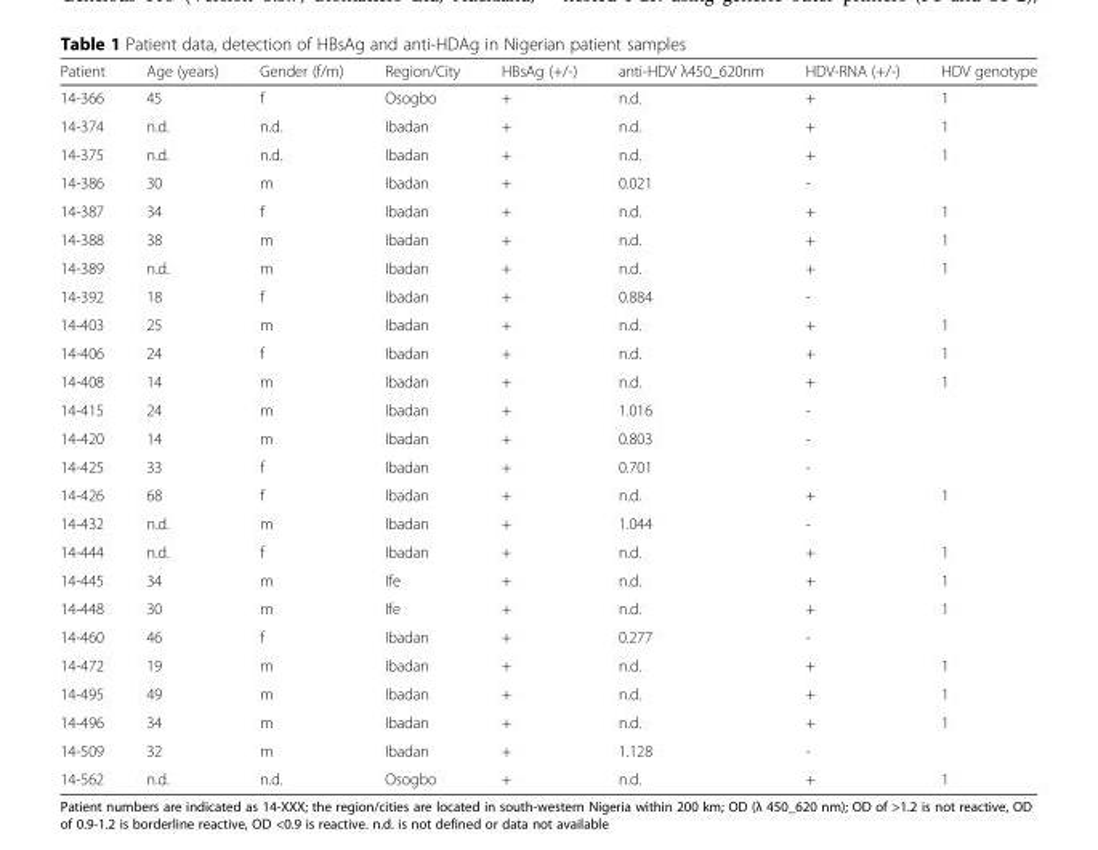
<table><thead><tr><td>Patient</td><td>Age (years)</td><td>Gender (f/m)</td><td>Region/City</td><td>HBsAg (+/-)</td><td>anti-HDV λ450_620nm</td><td>HDV-RNA (+/-)</td><td>HDV genotype</td></tr></thead><tbody><tr><td>14-366</td><td>45</td><td>f</td><td>Osogbo</td><td>+</td><td>n.d.</td><td>+</td><td>1</td></tr><tr><td>14-374</td><td>n.d.</td><td>n.d.</td><td>Ibadan</td><td>+</td><td>n.d.</td><td>+</td><td>1</td></tr><tr><td>14-375</td><td>n.d.</td><td>n.d.</td><td>Ibadan</td><td>+</td><td>n.d.</td><td>+</td><td>1</td></tr><tr><td>14-386</td><td>30</td><td>m</td><td>Ibadan</td><td>+</td><td>0.021</td><td>-</td><td></td></tr><tr><td>14-387</td><td>34</td><td>f</td><td>Ibadan</td><td>+</td><td>n.d.</td><td>+</td><td>1</td></tr><tr><td>14-388</td><td>38</td><td>m</td><td>Ibadan</td><td>+</td><td>n.d.</td><td>+</td><td>1</td></tr><tr><td>14-389</td><td>n.d.</td><td>m</td><td>Ibadan</td><td>+</td><td>n.d.</td><td>+</td><td>1</td></tr><tr><td>14-392</td><td>18</td><td>f</td><td>Ibadan</td><td>+</td><td>0.884</td><td>-</td><td></td></tr><tr><td>14-403</td><td>25</td><td>m</td><td>Ibadan</td><td>+</td><td>n.d.</td><td>+</td><td>1</td></tr><tr><td>14-406</td><td>24</td><td>f</td><td>Ibadan</td><td>+</td><td>n.d.</td><td>+</td><td>1</td></tr><tr><td>14-408</td><td>14</td><td>m</td><td>Ibadan</td><td>+</td><td>n.d.</td><td>+</td><td>1</td></tr><tr><td>14-415</td><td>24</td><td>m</td><td>Ibadan</td><td>+</td><td>1.016</td><td>-</td><td></td></tr><tr><td>14-420</td><td>14</td><td>m</td><td>Ibadan</td><td>+</td><td>0.803</td><td>-</td><td></td></tr><tr><td>14-425</td><td>33</td><td>f</td><td>Ibadan</td><td>+</td><td>0.701</td><td>-</td><td></td></tr><tr><td>14-426</td><td>68</td><td>f</td><td>Ibadan</td><td>+</td><td>n.d.</td><td>+</td><td>1</td></tr><tr><td>14-432</td><td>n.d.</td><td>m</td><td>Ibadan</td><td>+</td><td>1.044</td><td>-</td><td></td></tr><tr><td>14-444</td><td>n.d.</td><td>f</td><td>Ibadan</td><td>+</td><td>n.d.</td><td>+</td><td>1</td></tr><tr><td>14-445</td><td>34</td><td>m</td><td>Ife</td><td>+</td><td>n.d.</td><td>+</td><td>1</td></tr><tr><td>14-448</td><td>30</td><td>m</td><td>Ife</td><td>+</td><td>n.d.</td><td>+</td><td>1</td></tr><tr><td>14-460</td><td>46</td><td>f</td><td>Ibadan</td><td>+</td><td>0.277</td><td>-</td><td></td></tr><tr><td>14-472</td><td>19</td><td>m</td><td>Ibadan</td><td>+</td><td>n.d.</td><td>+</td><td>1</td></tr><tr><td>14-495</td><td>49</td><td>m</td><td>Ibadan</td><td>+</td><td>n.d.</td><td>+</td><td>1</td></tr><tr><td>14-496</td><td>34</td><td>m</td><td>Ibadan</td><td>+</td><td>n.d.</td><td>+</td><td>1</td></tr><tr><td>14-509</td><td>32</td><td>m</td><td>Ibadan</td><td>+</td><td>1.128</td><td>-</td><td></td></tr><tr><td>14-562</td><td>n.d.</td><td>n.d.</td><td>Osogbo</td><td>+</td><td>n.d.</td><td>+</td><td>1</td></tr></tbody></table>